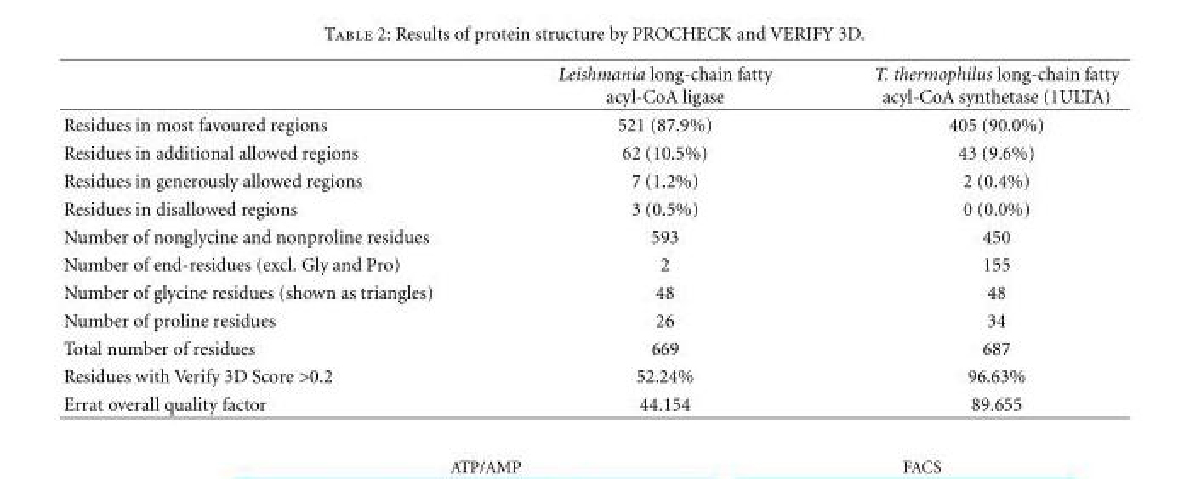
<table><thead><tr><td></td><td>Leishmania long-chain fatty acyl-CoA ligase</td><td>T. thermophilus long-chain fatty acyl-CoA synthetase (1ULTA)</td></tr></thead><tbody><tr><td>Residues in most favoured regions</td><td>521 (87.9%)</td><td>405 (90.0%)</td></tr><tr><td>Residues in additional allowed regions</td><td>62 (10.5%)</td><td>43 (9.6%)</td></tr><tr><td>Residues in generously allowed regions</td><td>7 (1.2%)</td><td>2 (0.4%)</td></tr><tr><td>Residues in disallowed regions</td><td>3 (0.5%)</td><td>0 (0.0%)</td></tr><tr><td>Number of nonglycine and nonproline residues</td><td>593</td><td>450</td></tr><tr><td>Number of end-residues (excl. Gly and Pro)</td><td>2</td><td>155</td></tr><tr><td>Number of glycine residues (shown as triangles)</td><td>48</td><td>48</td></tr><tr><td>Number of proline residues</td><td>26</td><td>34</td></tr><tr><td>Total number of residues</td><td>669</td><td>687</td></tr><tr><td>Residues with Verify 3D Score &gt;0.2</td><td>52.24%</td><td>96.63%</td></tr><tr><td>Errat overall quality factor</td><td>44.154</td><td>89.655</td></tr></tbody></table>